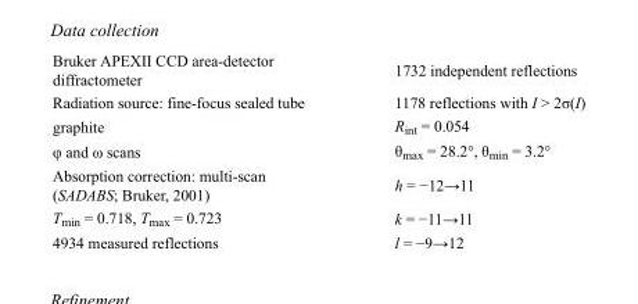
<table><tbody><tr><td>Bruker APEXII CCD area-detector diffractometer</td><td>1732 independent reflections</td></tr><tr><td>Radiation source: fine-focus sealed tube</td><td>1178 reflections with I &gt; 2σ(I)</td></tr><tr><td>graphite</td><td>R<sub>int</sub> = 0.054</td></tr><tr><td>φ and ω scans</td><td>θ<sub>max</sub> = 28.2°, θ<sub>min</sub> = 3.2°</td></tr><tr><td>Absorption correction: multi-scan (SADABS; Bruker, 2001)</td><td>h = −12→11</td></tr><tr><td>T<sub>min</sub> = 0.718, T<sub>max</sub> = 0.723</td><td>k = −11→11</td></tr><tr><td>4934 measured reflections</td><td>l = −9→12</td></tr></tbody></table>